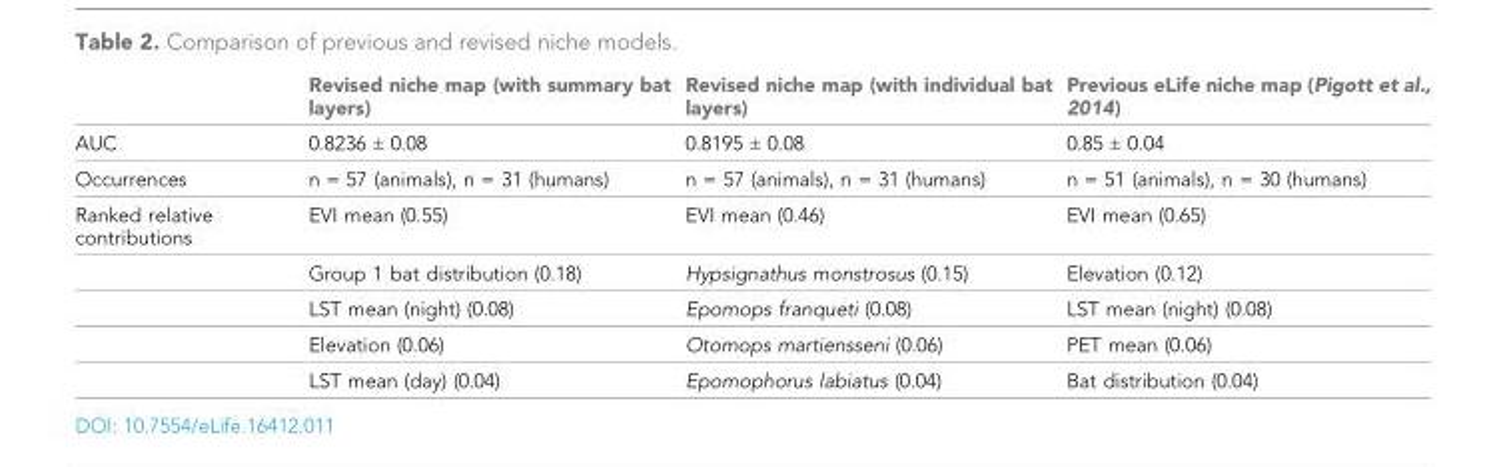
<table><thead><tr><td></td><td>Revised niche map (with summary bat layers)</td><td>Revised niche map (with individual bat layers)</td><td>Previous eLife niche map (Pigott et al., 2014)</td></tr></thead><tbody><tr><td>AUC</td><td>0.8236 ± 0.08</td><td>0.8195 ± 0.08</td><td>0.85 ± 0.04</td></tr><tr><td>Occurrences</td><td>n = 57 (animals), n = 31 (humans)</td><td>n = 57 (animals), n = 31 (humans)</td><td>n = 51 (animals), n = 30 (humans)</td></tr><tr><td rowspan="5">Ranked relative contributions</td><td>EVI mean (0.55)</td><td>EVI mean (0.46)</td><td>EVI mean (0.65)</td></tr><tr><td>Group 1 bat distribution (0.18)</td><td>Hypsignathus monstrosus (0.15)</td><td>Elevation (0.12)</td></tr><tr><td>LST mean (night) (0.08)</td><td>Epomops franqueti (0.08)</td><td>LST mean (night) (0.08)</td></tr><tr><td>Elevation (0.06)</td><td>Otomops martiensseni (0.06)</td><td>PET mean (0.06)</td></tr><tr><td>LST mean (day) (0.04)</td><td>Epomophorus labiatus (0.04)</td><td>Bat distribution (0.04)</td></tr></tbody></table>